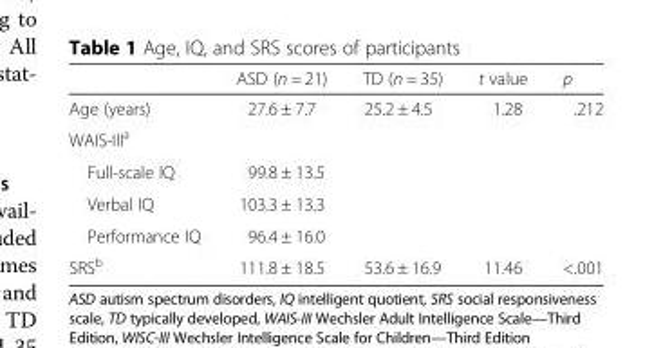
<table><thead><tr><td></td><td>ASD (n = 21)</td><td>TD (n = 35)</td><td>t value</td><td>p</td></tr></thead><tbody><tr><td>Age (years)</td><td>27.6 ± 7.7</td><td>25.2 ± 4.5</td><td>1.28</td><td>.212</td></tr><tr><td colspan="5">WAIS-III<sup>a</sup></td></tr><tr><td>Full-scale IQ</td><td>99.8 ± 13.5</td><td></td><td></td><td></td></tr><tr><td>Verbal IQ</td><td>103.3 ± 13.3</td><td></td><td></td><td></td></tr><tr><td>Performance IQ</td><td>96.4 ± 16.0</td><td></td><td></td><td></td></tr><tr><td>SRS<sup>b</sup></td><td>111.8 ± 18.5</td><td>53.6 ± 16.9</td><td>11.46</td><td>&lt;.001</td></tr></tbody></table>